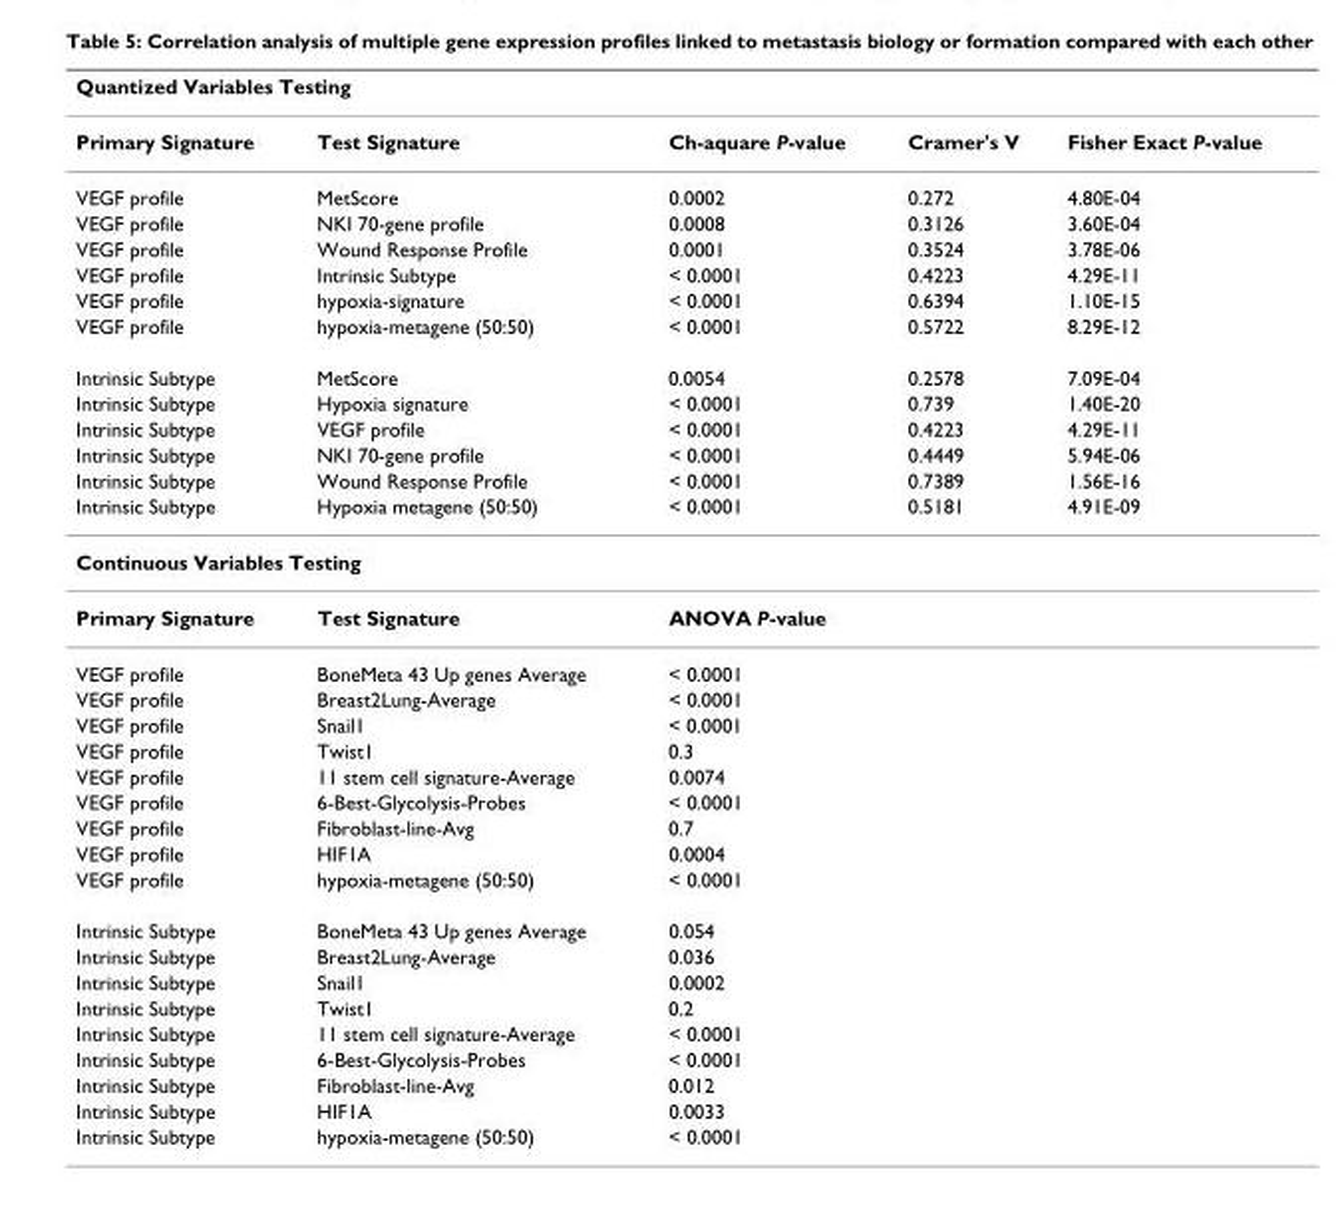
<table><thead><tr><td colspan="5">Quantized Variables Testing</td></tr><tr><td>Primary Signature</td><td>Test Signature</td><td>Ch-aquare P-value</td><td>Cramer&#x27;s V</td><td>Fisher Exact P-value</td></tr></thead><tbody><tr><td>VEGF profile</td><td>MetScore</td><td>0.0002</td><td>0.272</td><td>4.80E-04</td></tr><tr><td>VEGF profile</td><td>NKI 70-gene profile</td><td>0.0008</td><td>0.3126</td><td>3.60E-04</td></tr><tr><td>VEGF profile</td><td>Wound Response Profile</td><td>0.0001</td><td>0.3524</td><td>3.78E-06</td></tr><tr><td>VEGF profile</td><td>Intrinsic Subtype</td><td>&lt; 0.0001</td><td>0.4223</td><td>4.29E-11</td></tr><tr><td>VEGF profile</td><td>hypoxia-signature</td><td>&lt; 0.0001</td><td>0.6394</td><td>1.10E-15</td></tr><tr><td>VEGF profile</td><td>hypoxia-metagene (50:50)</td><td>&lt; 0.0001</td><td>0.5722</td><td>8.29E-12</td></tr><tr><td>Intrinsic Subtype</td><td>MetScore</td><td>0.0054</td><td>0.2578</td><td>7.09E-04</td></tr><tr><td>Intrinsic Subtype</td><td>Hypoxia signature</td><td>&lt; 0.0001</td><td>0.739</td><td>1.40E-20</td></tr><tr><td>Intrinsic Subtype</td><td>VEGF profile</td><td>&lt; 0.0001</td><td>0.4223</td><td>4.29E-11</td></tr><tr><td>Intrinsic Subtype</td><td>NKI 70-gene profile</td><td>&lt; 0.0001</td><td>0.4449</td><td>5.94E-06</td></tr><tr><td>Intrinsic Subtype</td><td>Wound Response Profile</td><td>&lt; 0.0001</td><td>0.7389</td><td>1.56E-16</td></tr><tr><td>Intrinsic Subtype</td><td>Hypoxia metagene (50:50)</td><td>&lt; 0.0001</td><td>0.5181</td><td>4.91E-09</td></tr><tr><td colspan="5">Continuous Variables Testing</td></tr><tr><td>Primary Signature</td><td>Test Signature</td><td>ANOVA P-value</td><td></td><td></td></tr><tr><td>VEGF profile</td><td>BoneMeta 43 Up genes Average</td><td>&lt; 0.0001</td><td></td><td></td></tr><tr><td>VEGF profile</td><td>Breast2Lung-Average</td><td>&lt; 0.0001</td><td></td><td></td></tr><tr><td>VEGF profile</td><td>Snail1</td><td>&lt; 0.0001</td><td></td><td></td></tr><tr><td>VEGF profile</td><td>Twist1</td><td>0.3</td><td></td><td></td></tr><tr><td>VEGF profile</td><td>11 stem cell signature-Average</td><td>0.0074</td><td></td><td></td></tr><tr><td>VEGF profile</td><td>6-Best-Glycolysis-Probes</td><td>&lt; 0.0001</td><td></td><td></td></tr><tr><td>VEGF profile</td><td>Fibroblast-line-Avg</td><td>0.7</td><td></td><td></td></tr><tr><td>VEGF profile</td><td>HIF1A</td><td>0.0004</td><td></td><td></td></tr><tr><td>VEGF profile</td><td>hypoxia-metagene (50:50)</td><td>&lt; 0.0001</td><td></td><td></td></tr><tr><td>Intrinsic Subtype</td><td>BoneMeta 43 Up genes Average</td><td>0.054</td><td></td><td></td></tr><tr><td>Intrinsic Subtype</td><td>Breast2Lung-Average</td><td>0.036</td><td></td><td></td></tr><tr><td>Intrinsic Subtype</td><td>Snail1</td><td>0.0002</td><td></td><td></td></tr><tr><td>Intrinsic Subtype</td><td>Twist1</td><td>0.2</td><td></td><td></td></tr><tr><td>Intrinsic Subtype</td><td>11 stem cell signature-Average</td><td>&lt; 0.0001</td><td></td><td></td></tr><tr><td>Intrinsic Subtype</td><td>6-Best-Glycolysis-Probes</td><td>&lt; 0.0001</td><td></td><td></td></tr><tr><td>Intrinsic Subtype</td><td>Fibroblast-line-Avg</td><td>0.012</td><td></td><td></td></tr><tr><td>Intrinsic Subtype</td><td>HIF1A</td><td>0.0033</td><td></td><td></td></tr><tr><td>Intrinsic Subtype</td><td>hypoxia-metagene (50:50)</td><td>&lt; 0.0001</td><td></td><td></td></tr></tbody></table>